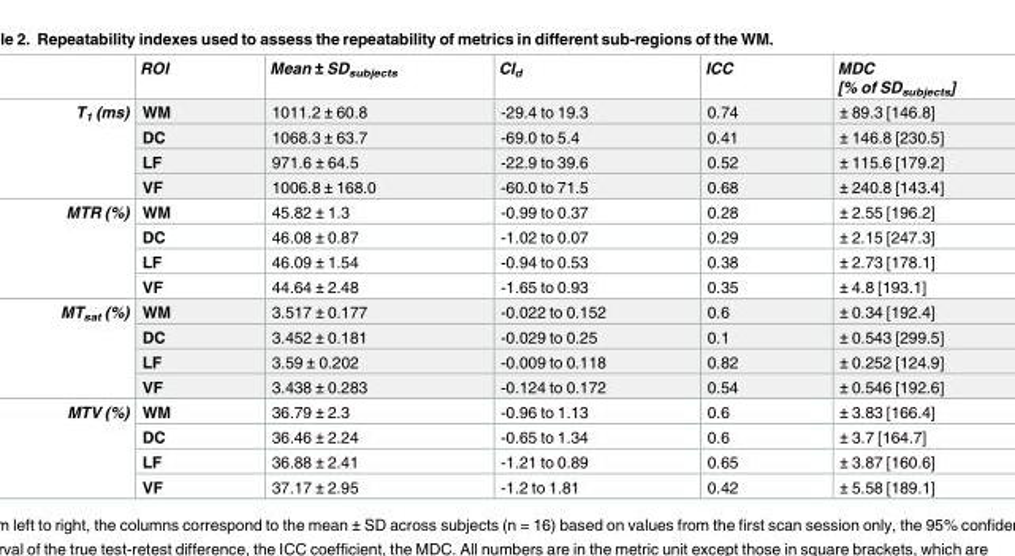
<table><thead><tr><td></td><td>ROI</td><td>Mean ± SD<sub>subjects</sub></td><td>CI<sub>d</sub></td><td>ICC</td><td>MDC [% of SD<sub>subjects</sub>]</td></tr></thead><tbody><tr><td rowspan="4">T<sub>1</sub> (ms)</td><td>WM</td><td>1011.2 ± 60.8</td><td>-29.4 to 19.3</td><td>0.74</td><td>± 89.3 [146.8]</td></tr><tr><td>DC</td><td>1068.3 ± 63.7</td><td>-69.0 to 5.4</td><td>0.41</td><td>± 146.8 [230.5]</td></tr><tr><td>LF</td><td>971.6 ± 64.5</td><td>-22.9 to 39.6</td><td>0.52</td><td>± 115.6 [179.2]</td></tr><tr><td>VF</td><td>1006.8 ± 168.0</td><td>-60.0 to 71.5</td><td>0.68</td><td>± 240.8 [143.4]</td></tr><tr><td rowspan="4">MTR (%)</td><td>WM</td><td>45.82 ± 1.3</td><td>-0.99 to 0.37</td><td>0.28</td><td>± 2.55 [196.2]</td></tr><tr><td>DC</td><td>46.08 ± 0.87</td><td>-1.02 to 0.07</td><td>0.29</td><td>± 2.15 [247.3]</td></tr><tr><td>LF</td><td>46.09 ± 1.54</td><td>-0.94 to 0.53</td><td>0.38</td><td>± 2.73 [178.1]</td></tr><tr><td>VF</td><td>44.64 ± 2.48</td><td>-1.65 to 0.93</td><td>0.35</td><td>± 4.8 [193.1]</td></tr><tr><td rowspan="4">MT<sub>sat</sub> (%)</td><td>WM</td><td>3.517 ± 0.177</td><td>-0.022 to 0.152</td><td>0.6</td><td>± 0.34 [192.4]</td></tr><tr><td>DC</td><td>3.452 ± 0.181</td><td>-0.029 to 0.25</td><td>0.1</td><td>± 0.543 [299.5]</td></tr><tr><td>LF</td><td>3.59 ± 0.202</td><td>-0.009 to 0.118</td><td>0.82</td><td>± 0.252 [124.9]</td></tr><tr><td>VF</td><td>3.438 ± 0.283</td><td>-0.124 to 0.172</td><td>0.54</td><td>± 0.546 [192.6]</td></tr><tr><td rowspan="4">MTV (%)</td><td>WM</td><td>36.79 ± 2.3</td><td>-0.96 to 1.13</td><td>0.6</td><td>± 3.83 [166.4]</td></tr><tr><td>DC</td><td>36.46 ± 2.24</td><td>-0.65 to 1.34</td><td>0.6</td><td>± 3.7 [164.7]</td></tr><tr><td>LF</td><td>36.88 ± 2.41</td><td>-1.21 to 0.89</td><td>0.65</td><td>± 3.87 [160.6]</td></tr><tr><td>VF</td><td>37.17 ± 2.95</td><td>-1.2 to 1.81</td><td>0.42</td><td>± 5.58 [189.1]</td></tr></tbody></table>